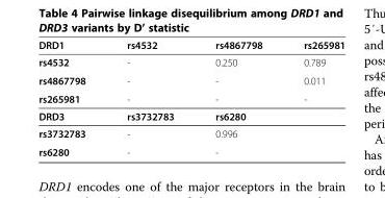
<table><thead><tr><td>DRD1</td><td>rs4532</td><td>rs4867798</td><td>rs265981</td></tr></thead><tbody><tr><td>rs4532</td><td>-</td><td>0.250</td><td>0.789</td></tr><tr><td>rs4867798</td><td>-</td><td>-</td><td>0.011</td></tr><tr><td>rs265981</td><td>-</td><td>-</td><td>-</td></tr><tr><td>DRD3</td><td>rs3732783</td><td>rs6280</td><td></td></tr><tr><td>rs3732783</td><td>-</td><td>0.996</td><td></td></tr><tr><td>rs6280</td><td>-</td><td>-</td><td></td></tr></tbody></table>